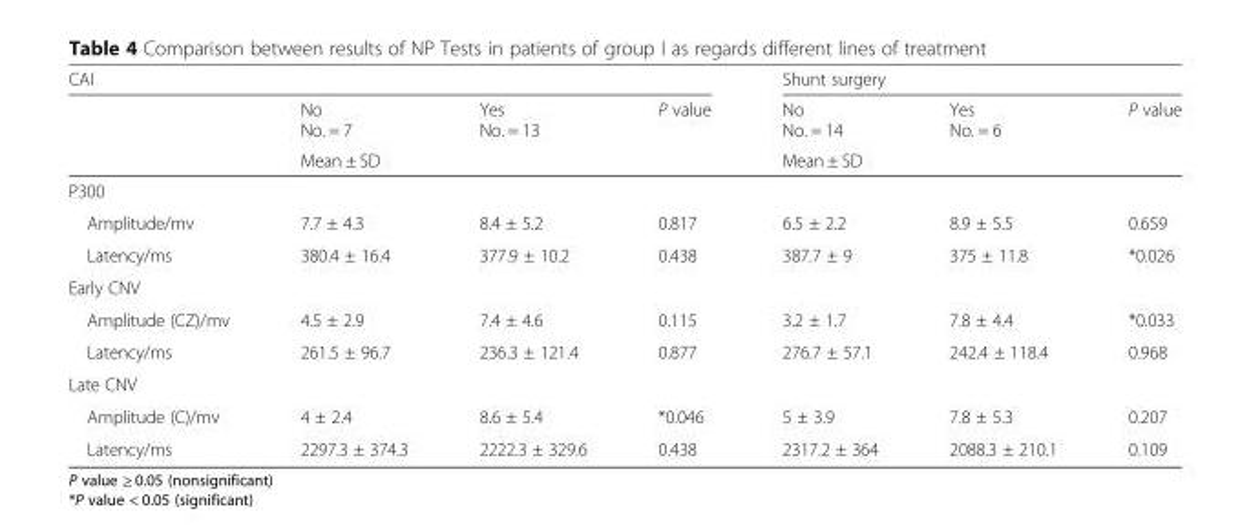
<table><thead><tr><td colspan="4">CAI</td><td colspan="3">Shunt surgery</td></tr><tr><td rowspan="2"></td><td>No No. = 7</td><td>Yes No. = 13</td><td rowspan="2">P value</td><td>No No. = 14</td><td>Yes No. = 6</td><td rowspan="2">P value</td></tr><tr><td colspan="2">Mean ± SD</td><td colspan="2">Mean ± SD</td></tr></thead><tbody><tr><td colspan="7">P300</td></tr><tr><td>Amplitude/mv</td><td>7.7 ± 4.3</td><td>8.4 ± 5.2</td><td>0.817</td><td>6.5 ± 2.2</td><td>8.9 ± 5.5</td><td>0.659</td></tr><tr><td>Latency/ms</td><td>380.4 ± 16.4</td><td>377.9 ± 10.2</td><td>0.438</td><td>387.7 ± 9</td><td>375 ± 11.8</td><td>*0.026</td></tr><tr><td colspan="7">Early CNV</td></tr><tr><td>Amplitude (CZ)/mv</td><td>4.5 ± 2.9</td><td>7.4 ± 4.6</td><td>0.115</td><td>3.2 ± 1.7</td><td>7.8 ± 4.4</td><td>*0.033</td></tr><tr><td>Latency/ms</td><td>261.5 ± 96.7</td><td>236.3 ± 121.4</td><td>0.877</td><td>276.7 ± 57.1</td><td>242.4 ± 118.4</td><td>0.968</td></tr><tr><td colspan="7">Late CNV</td></tr><tr><td>Amplitude (C)/mv</td><td>4 ± 2.4</td><td>8.6 ± 5.4</td><td>*0.046</td><td>5 ± 3.9</td><td>7.8 ± 5.3</td><td>0.207</td></tr><tr><td>Latency/ms</td><td>2297.3 ± 374.3</td><td>2222.3 ± 329.6</td><td>0.438</td><td>2317.2 ± 364</td><td>2088.3 ± 210.1</td><td>0.109</td></tr></tbody></table>